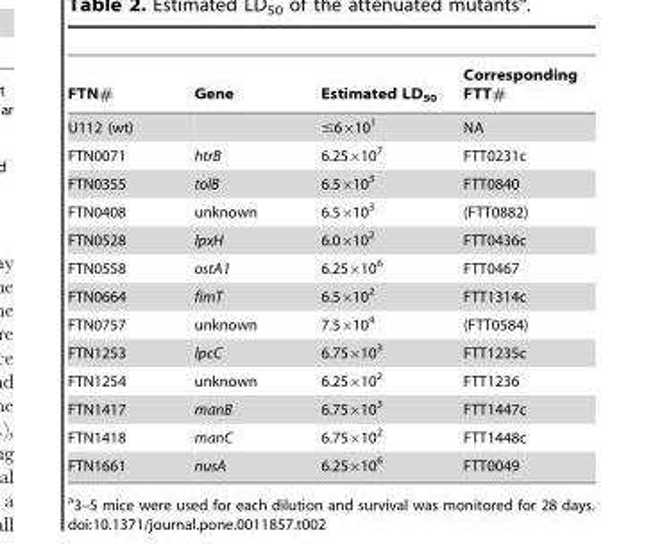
<table><thead><tr><td>FTN#</td><td>Gene</td><td>Estimated LD<sub>50</sub></td><td>Corresponding FTT#</td></tr></thead><tbody><tr><td>U112 (wt)</td><td></td><td>≤6×10<sup>1</sup></td><td>NA</td></tr><tr><td>FTN0071</td><td>htrB</td><td>6.25×10<sup>7</sup></td><td>FTT0231c</td></tr><tr><td>FTN0355</td><td>tolB</td><td>6.5×10<sup>3</sup></td><td>FTT0840</td></tr><tr><td>FTN0408</td><td>unknown</td><td>6.5×10<sup>3</sup></td><td>(FTT0882)</td></tr><tr><td>FTN0528</td><td>lpxH</td><td>6.0×10<sup>2</sup></td><td>FTT0436c</td></tr><tr><td>FTN0558</td><td>ostA1</td><td>6.25×10<sup>6</sup></td><td>FTT0467</td></tr><tr><td>FTN0664</td><td>fimT</td><td>6.5×10<sup>2</sup></td><td>FTT1314c</td></tr><tr><td>FTN0757</td><td>unknown</td><td>7.5×10<sup>4</sup></td><td>(FTT0584)</td></tr><tr><td>FTN1253</td><td>lpcC</td><td>6.75×10<sup>3</sup></td><td>FTT1235c</td></tr><tr><td>FTN1254</td><td>unknown</td><td>6.25×10<sup>2</sup></td><td>FTT1236</td></tr><tr><td>FTN1417</td><td>manB</td><td>6.75×10<sup>3</sup></td><td>FTT1447c</td></tr><tr><td>FTN1418</td><td>manC</td><td>6.75×10<sup>2</sup></td><td>FTT1448c</td></tr><tr><td>FTN1661</td><td>nusA</td><td>6.25×10<sup>6</sup></td><td>FTT0049</td></tr></tbody></table>